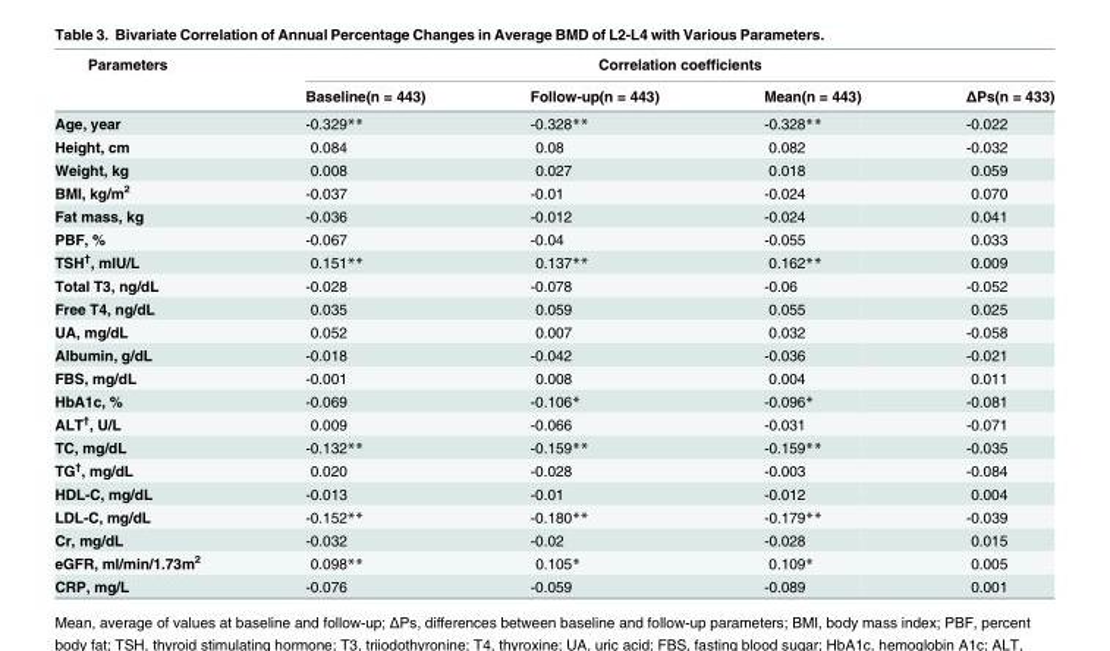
<table><thead><tr><td rowspan="2">Parameters</td><td colspan="4">Correlation coefficients</td></tr><tr><td>Baseline(n = 443)</td><td>Follow-up(n = 443)</td><td>Mean(n = 443)</td><td>ΔPs(n = 433)</td></tr></thead><tbody><tr><td>Age, year</td><td>-0.329**</td><td>-0.328**</td><td>-0.328**</td><td>-0.022</td></tr><tr><td>Height, cm</td><td>0.084</td><td>0.08</td><td>0.082</td><td>-0.032</td></tr><tr><td>Weight, kg</td><td>0.008</td><td>0.027</td><td>0.018</td><td>0.059</td></tr><tr><td>BMI, kg/m<sup>2</sup></td><td>-0.037</td><td>-0.01</td><td>-0.024</td><td>0.070</td></tr><tr><td>Fat mass, kg</td><td>-0.036</td><td>-0.012</td><td>-0.024</td><td>0.041</td></tr><tr><td>PBF, %</td><td>-0.067</td><td>-0.04</td><td>-0.055</td><td>0.033</td></tr><tr><td>TSH<sup>†</sup>, mIU/L</td><td>0.151**</td><td>0.137**</td><td>0.162**</td><td>0.009</td></tr><tr><td>Total T3, ng/dL</td><td>-0.028</td><td>-0.078</td><td>-0.06</td><td>-0.052</td></tr><tr><td>Free T4, ng/dL</td><td>0.035</td><td>0.059</td><td>0.055</td><td>0.025</td></tr><tr><td>UA, mg/dL</td><td>0.052</td><td>0.007</td><td>0.032</td><td>-0.058</td></tr><tr><td>Albumin, g/dL</td><td>-0.018</td><td>-0.042</td><td>-0.036</td><td>-0.021</td></tr><tr><td>FBS, mg/dL</td><td>-0.001</td><td>0.008</td><td>0.004</td><td>0.011</td></tr><tr><td>HbA1c, %</td><td>-0.069</td><td>-0.106*</td><td>-0.096*</td><td>-0.081</td></tr><tr><td>ALT<sup>†</sup>, U/L</td><td>0.009</td><td>-0.066</td><td>-0.031</td><td>-0.071</td></tr><tr><td>TC, mg/dL</td><td>-0.132**</td><td>-0.159**</td><td>-0.159**</td><td>-0.035</td></tr><tr><td>TG<sup>†</sup>, mg/dL</td><td>0.020</td><td>-0.028</td><td>-0.003</td><td>-0.084</td></tr><tr><td>HDL-C, mg/dL</td><td>-0.013</td><td>-0.01</td><td>-0.012</td><td>0.004</td></tr><tr><td>LDL-C, mg/dL</td><td>-0.152**</td><td>-0.180**</td><td>-0.179**</td><td>-0.039</td></tr><tr><td>Cr, mg/dL</td><td>-0.032</td><td>-0.02</td><td>-0.028</td><td>0.015</td></tr><tr><td>eGFR, ml/min/1.73m<sup>2</sup></td><td>0.098**</td><td>0.105*</td><td>0.109*</td><td>0.005</td></tr><tr><td>CRP, mg/L</td><td>-0.076</td><td>-0.059</td><td>-0.089</td><td>0.001</td></tr></tbody></table>